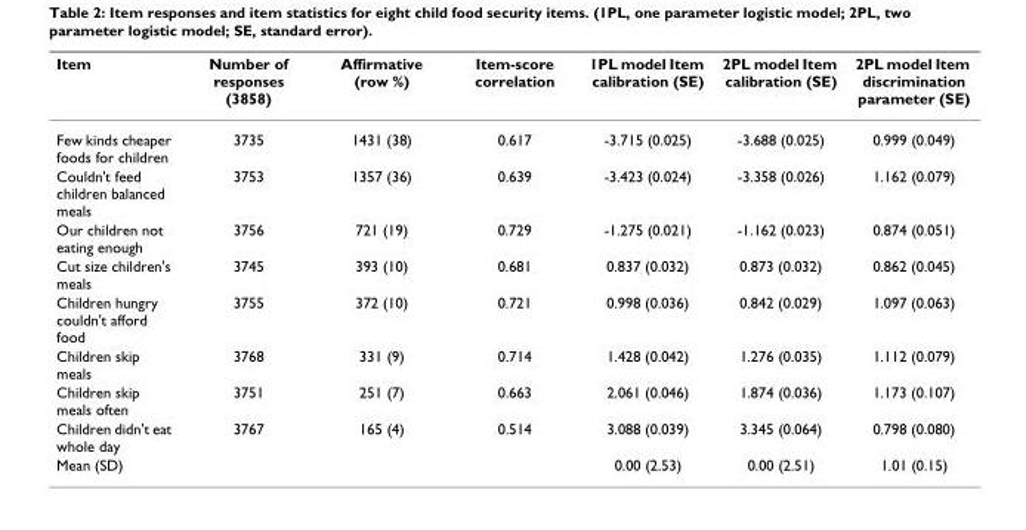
<table><thead><tr><td>Item</td><td>Number of responses (3858)</td><td>Affirmative (row %)</td><td>Item-score correlation</td><td>1PL model Item calibration (SE)</td><td>2PL model Item calibration (SE)</td><td>2PL model Item discrimination parameter (SE)</td></tr></thead><tbody><tr><td>Few kinds cheaper foods for children</td><td>3735</td><td>1431 (38)</td><td>0.617</td><td>-3.715 (0.025)</td><td>-3.688 (0.025)</td><td>0.999 (0.049)</td></tr><tr><td>Couldn&#x27;t feed children balanced meals</td><td>3753</td><td>1357 (36)</td><td>0.639</td><td>-3.423 (0.024)</td><td>-3.358 (0.026)</td><td>1.162 (0.079)</td></tr><tr><td>Our children not eating enough</td><td>3756</td><td>721 (19)</td><td>0.729</td><td>-1.275 (0.021)</td><td>-1.162 (0.023)</td><td>0.874 (0.051)</td></tr><tr><td>Cut size children&#x27;s meals</td><td>3745</td><td>393 (10)</td><td>0.681</td><td>0.837 (0.032)</td><td>0.873 (0.032)</td><td>0.862 (0.045)</td></tr><tr><td>Children hungry couldn&#x27;t afford food</td><td>3755</td><td>372 (10)</td><td>0.721</td><td>0.998 (0.036)</td><td>0.842 (0.029)</td><td>1.097 (0.063)</td></tr><tr><td>Children skip meals</td><td>3768</td><td>331 (9)</td><td>0.714</td><td>1.428 (0.042)</td><td>1.276 (0.035)</td><td>1.112 (0.079)</td></tr><tr><td>Children skip meals often</td><td>3751</td><td>251 (7)</td><td>0.663</td><td>2.061 (0.046)</td><td>1.874 (0.036)</td><td>1.173 (0.107)</td></tr><tr><td>Children didn&#x27;t eat whole day</td><td>3767</td><td>165 (4)</td><td>0.514</td><td>3.088 (0.039)</td><td>3.345 (0.064)</td><td>0.798 (0.080)</td></tr><tr><td>Mean (SD)</td><td></td><td></td><td></td><td>0.00 (2.53)</td><td>0.00 (2.51)</td><td>1.01 (0.15)</td></tr></tbody></table>